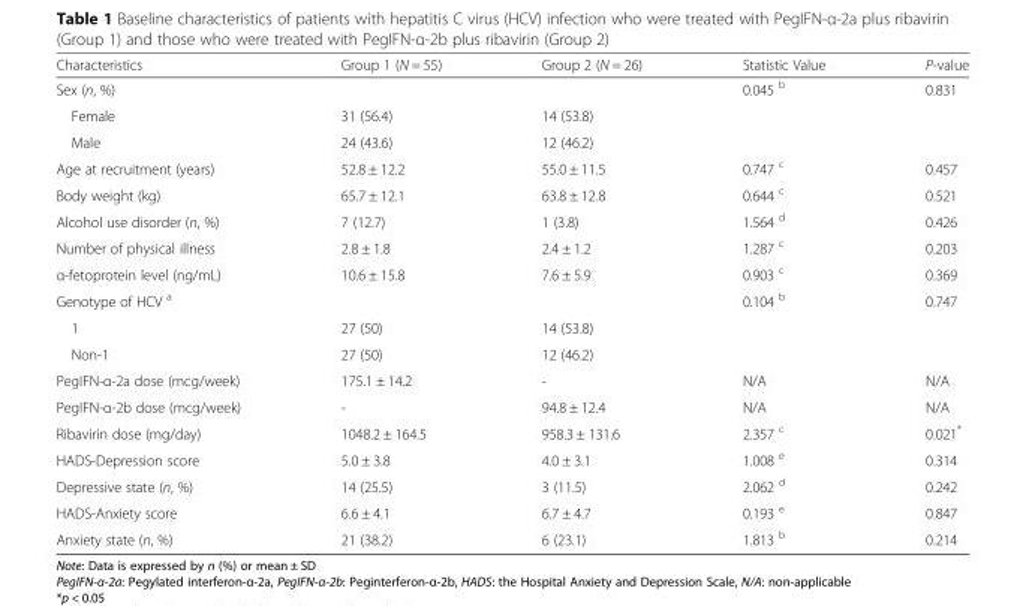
<table><thead><tr><td>Characteristics</td><td>Group 1 (N = 55)</td><td>Group 2 (N = 26)</td><td>Statistic Value</td><td>P-value</td></tr></thead><tbody><tr><td>Sex (n, %)</td><td></td><td></td><td>0.045 <sup>b</sup></td><td>0.831</td></tr><tr><td>Female</td><td>31 (56.4)</td><td>14 (53.8)</td><td></td><td></td></tr><tr><td>Male</td><td>24 (43.6)</td><td>12 (46.2)</td><td></td><td></td></tr><tr><td>Age at recruitment (years)</td><td>52.8 ± 12.2</td><td>55.0 ± 11.5</td><td>0.747 <sup>c</sup></td><td>0.457</td></tr><tr><td>Body weight (kg)</td><td>65.7 ± 12.1</td><td>63.8 ± 12.8</td><td>0.644 <sup>c</sup></td><td>0.521</td></tr><tr><td>Alcohol use disorder (n, %)</td><td>7 (12.7)</td><td>1 (3.8)</td><td>1.564 <sup>d</sup></td><td>0.426</td></tr><tr><td>Number of physical illness</td><td>2.8 ± 1.8</td><td>2.4 ± 1.2</td><td>1.287 <sup>c</sup></td><td>0.203</td></tr><tr><td>α-fetoprotein level (ng/mL)</td><td>10.6 ± 15.8</td><td>7.6 ± 5.9</td><td>0.903 <sup>c</sup></td><td>0.369</td></tr><tr><td>Genotype of HCV <sup>a</sup></td><td></td><td></td><td>0.104 <sup>b</sup></td><td>0.747</td></tr><tr><td>1</td><td>27 (50)</td><td>14 (53.8)</td><td></td><td></td></tr><tr><td>Non-1</td><td>27 (50)</td><td>12 (46.2)</td><td></td><td></td></tr><tr><td>PegIFN-α-2a dose (mcg/week)</td><td>175.1 ± 14.2</td><td>-</td><td>N/A</td><td>N/A</td></tr><tr><td>PegIFN-α-2b dose (mcg/week)</td><td>-</td><td>94.8 ± 12.4</td><td>N/A</td><td>N/A</td></tr><tr><td>Ribavirin dose (mg/day)</td><td>1048.2 ± 164.5</td><td>958.3 ± 131.6</td><td>2.357 <sup>c</sup></td><td>0.021*</td></tr><tr><td>HADS-Depression score</td><td>5.0 ± 3.8</td><td>4.0 ± 3.1</td><td>1.008 <sup>e</sup></td><td>0.314</td></tr><tr><td>Depressive state (n, %)</td><td>14 (25.5)</td><td>3 (11.5)</td><td>2.062 <sup>d</sup></td><td>0.242</td></tr><tr><td>HADS-Anxiety score</td><td>6.6 ± 4.1</td><td>6.7 ± 4.7</td><td>0.193 <sup>e</sup></td><td>0.847</td></tr><tr><td>Anxiety state (n, %)</td><td>21 (38.2)</td><td>6 (23.1)</td><td>1.813 <sup>b</sup></td><td>0.214</td></tr></tbody></table>